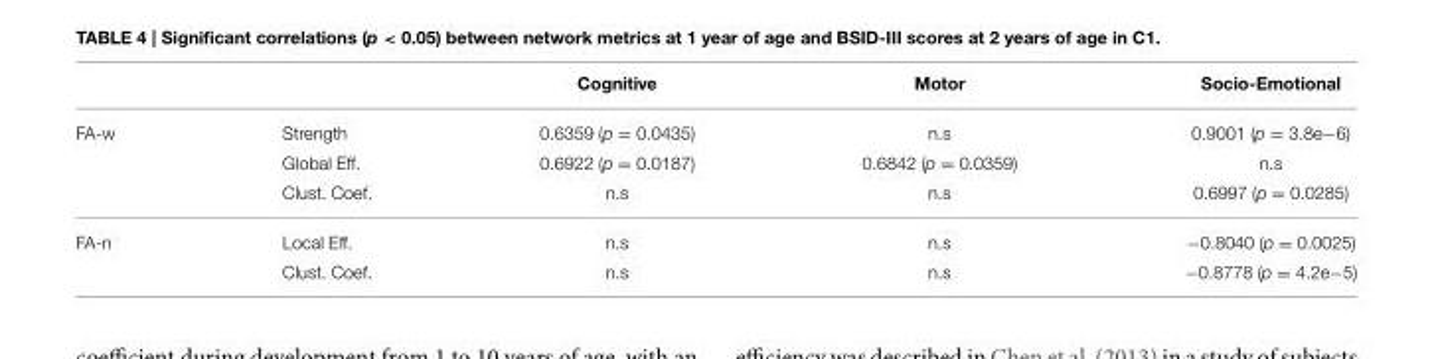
<table><thead><tr><td></td><td></td><td>Cognitive</td><td>Motor</td><td>Socio-Emotional</td></tr></thead><tbody><tr><td rowspan="3">FA-w</td><td>Strength</td><td>0.6359 (p = 0.0435)</td><td>n.s</td><td>0.9001 (p = 3.8e−6)</td></tr><tr><td>Global Eff.</td><td>0.6922 (p = 0.0187)</td><td>0.6842 (p = 0.0359)</td><td>n.s</td></tr><tr><td>Clust. Coef.</td><td>n.s</td><td>n.s</td><td>0.6997 (p = 0.0285)</td></tr><tr><td rowspan="2">FA-n</td><td>Local Eff.</td><td>n.s</td><td>n.s</td><td>−0.8040 (p = 0.0025)</td></tr><tr><td>Clust. Coef.</td><td>n.s</td><td>n.s</td><td>−0.8778 (p = 4.2e−5)</td></tr></tbody></table>